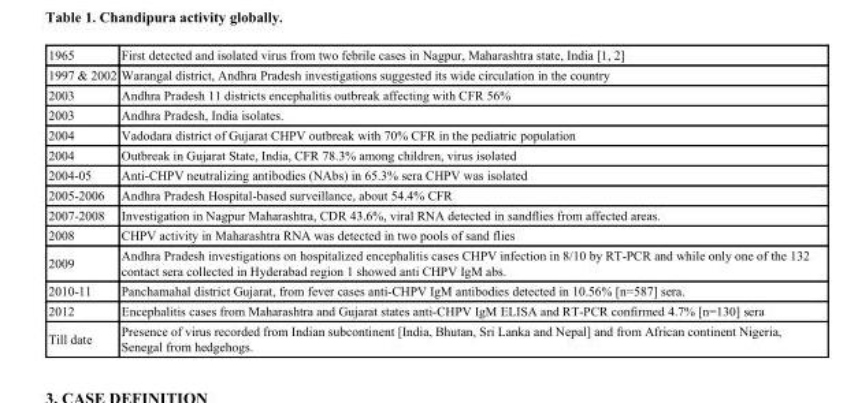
<table><tbody><tr><td>1965</td><td>First detected and isolated virus from two febrile cases in Nagpur, Maharashtra state, India [1, 2]</td></tr><tr><td>1997 &amp; 2002</td><td>Warangal district, Andhra Pradesh investigations suggested its wide circulation in the country</td></tr><tr><td>2003</td><td>Andhra Pradesh 11 districts encephalitis outbreak affecting with CFR 56%</td></tr><tr><td>2003</td><td>Andhra Pradesh, India isolates.</td></tr><tr><td>2004</td><td>Vadodara district of Gujarat CHPV outbreak with 70% CFR in the pediatric population</td></tr><tr><td>2004</td><td>Outbreak in Gujarat State, India, CFR 78.3% among children, virus isolated</td></tr><tr><td>2004-05</td><td>Anti-CHPV neutralizing antibodies (NAbs) in 65.3% sera CHPV was isolated</td></tr><tr><td>2005-2006</td><td>Andhra Pradesh Hospital-based surveillance, about 54.4% CFR</td></tr><tr><td>2007-2008</td><td>Investigation in Nagpur Maharashtra, CDR 43.6%, viral RNA detected in sandflies from affected areas.</td></tr><tr><td>2008</td><td>CHPV activity in Maharashtra RNA was detected in two pools of sand flies</td></tr><tr><td>2009</td><td>Andhra Pradesh investigations on hospitalized encephalitis cases CHPV infection in 8/10 by RT-PCR and while only one of the 132 contact sera collected in Hyderabad region 1 showed anti CHPV IgM abs.</td></tr><tr><td>2010-11</td><td>Panchamahal district Gujarat, from fever cases anti-CHPV IgM antibodies detected in 10.56% [n=587] sera.</td></tr><tr><td>2012</td><td>Encephalitis cases from Maharashtra and Gujarat states anti-CHPV IgM ELISA and RT-PCR confirmed 4.7% [n=130] sera</td></tr><tr><td>Till date</td><td>Presence of virus recorded from Indian subcontinent [India, Bhutan, Sri Lanka and Nepal] and from African continent Nigeria, Senegal from hedgehogs.</td></tr></tbody></table>